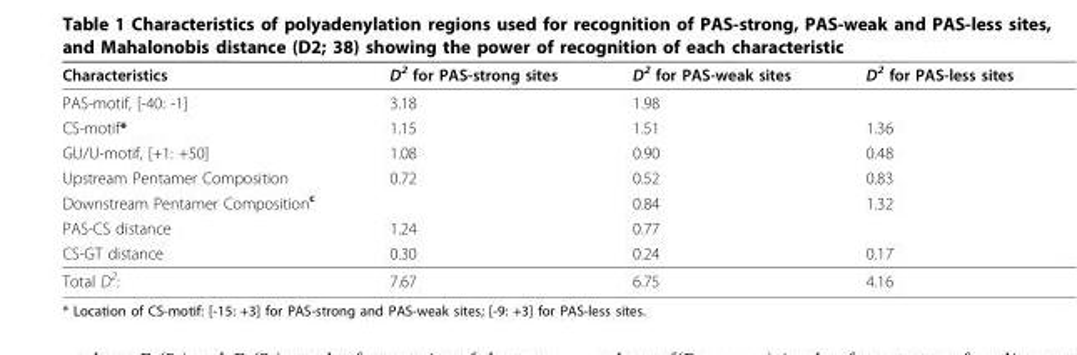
<table><thead><tr><td>Characteristics</td><td>D<sup>2</sup> for PAS-strong sites</td><td>D<sup>2</sup> for PAS-weak sites</td><td>D<sup>2</sup> for PAS-less sites</td></tr></thead><tbody><tr><td>PAS-motif, [-40: -1]</td><td>3.18</td><td>1.98</td><td></td></tr><tr><td>CS-motif*</td><td>1.15</td><td>1.51</td><td>1.36</td></tr><tr><td>GU/U-motif, [+1: +50]</td><td>1.08</td><td>0.90</td><td>0.48</td></tr><tr><td>Upstream Pentamer Composition</td><td>0.72</td><td>0.52</td><td>0.83</td></tr><tr><td>Downstream Pentamer Composition<sup>c</sup></td><td></td><td>0.84</td><td>1.32</td></tr><tr><td>PAS-CS distance</td><td>1.24</td><td>0.77</td><td></td></tr><tr><td>CS-GT distance</td><td>0.30</td><td>0.24</td><td>0.17</td></tr><tr><td>Total D<sup>2</sup>:</td><td>7.67</td><td>6.75</td><td>4.16</td></tr></tbody></table>